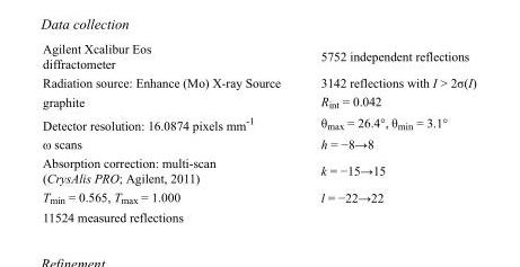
<table><tbody><tr><td>Agilent Xcalibur Eos diffractometer</td><td>5752 independent reflections</td></tr><tr><td>Radiation source: Enhance (Mo) X-ray Source</td><td>3142 reflections with I &gt; 2σ(I)</td></tr><tr><td>graphite</td><td>R<sub>int</sub> = 0.042</td></tr><tr><td>Detector resolution: 16.0874 pixels mm<sup>-1</sup></td><td>θ<sub>max</sub> = 26.4°, θ<sub>min</sub> = 3.1°</td></tr><tr><td>ω scans</td><td>h = −8→8</td></tr><tr><td>Absorption correction: multi-scan (CrysAlis PRO; Agilent, 2011)</td><td>k = −15→15</td></tr><tr><td>T<sub>min</sub> = 0.565, T<sub>max</sub> = 1.000</td><td>l = −22→22</td></tr><tr><td>11524 measured reflections</td><td></td></tr></tbody></table>